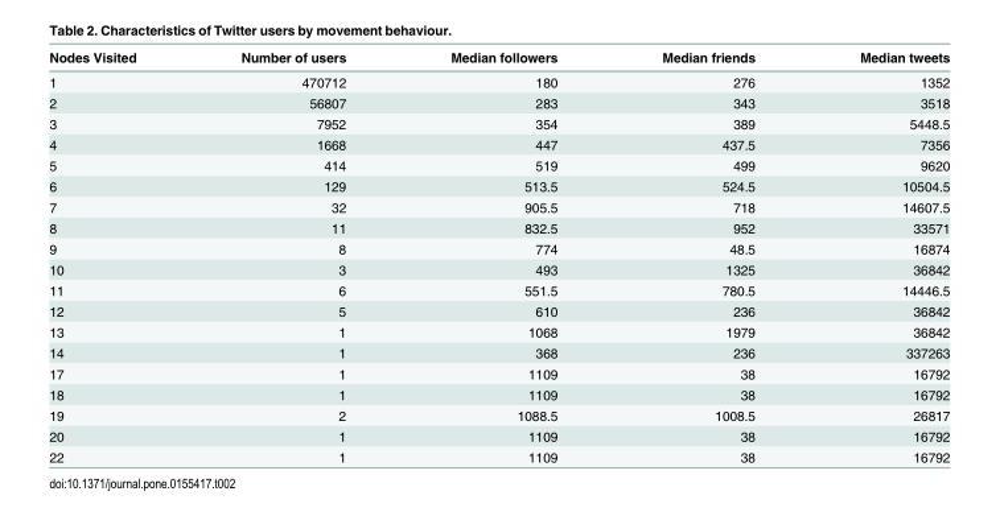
<table><thead><tr><td>Nodes Visited</td><td>Number of users</td><td>Median followers</td><td>Median friends</td><td>Median tweets</td></tr></thead><tbody><tr><td>1</td><td>470712</td><td>180</td><td>276</td><td>1352</td></tr><tr><td>2</td><td>56807</td><td>283</td><td>343</td><td>3518</td></tr><tr><td>3</td><td>7952</td><td>354</td><td>389</td><td>5448.5</td></tr><tr><td>4</td><td>1668</td><td>447</td><td>437.5</td><td>7356</td></tr><tr><td>5</td><td>414</td><td>519</td><td>499</td><td>9620</td></tr><tr><td>6</td><td>129</td><td>513.5</td><td>524.5</td><td>10504.5</td></tr><tr><td>7</td><td>32</td><td>905.5</td><td>718</td><td>14607.5</td></tr><tr><td>8</td><td>11</td><td>832.5</td><td>952</td><td>33571</td></tr><tr><td>9</td><td>8</td><td>774</td><td>48.5</td><td>16874</td></tr><tr><td>10</td><td>3</td><td>493</td><td>1325</td><td>36842</td></tr><tr><td>11</td><td>6</td><td>551.5</td><td>780.5</td><td>14446.5</td></tr><tr><td>12</td><td>5</td><td>610</td><td>236</td><td>36842</td></tr><tr><td>13</td><td>1</td><td>1068</td><td>1979</td><td>36842</td></tr><tr><td>14</td><td>1</td><td>368</td><td>236</td><td>337263</td></tr><tr><td>17</td><td>1</td><td>1109</td><td>38</td><td>16792</td></tr><tr><td>18</td><td>1</td><td>1109</td><td>38</td><td>16792</td></tr><tr><td>19</td><td>2</td><td>1088.5</td><td>1008.5</td><td>26817</td></tr><tr><td>20</td><td>1</td><td>1109</td><td>38</td><td>16792</td></tr><tr><td>22</td><td>1</td><td>1109</td><td>38</td><td>16792</td></tr></tbody></table>